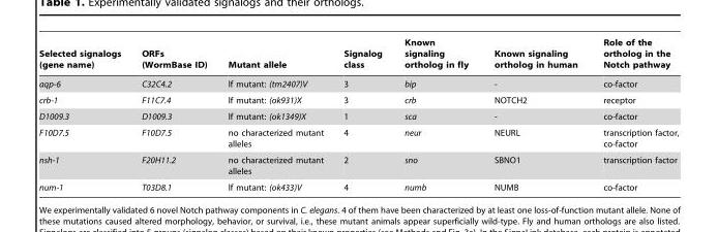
<table><thead><tr><td>Selected signalogs (gene name)</td><td>ORFs (WormBase ID)</td><td>Mutant allele</td><td>Signalog class</td><td>Known signaling ortholog in fly</td><td>Known signaling ortholog in human</td><td>Role of the ortholog in the Notch pathway</td></tr></thead><tbody><tr><td>aqp-6</td><td>C32C4.2</td><td>lf mutant: (tm2407)V</td><td>3</td><td>bip</td><td>-</td><td>co-factor</td></tr><tr><td>crb-1</td><td>F11C7.4</td><td>lf mutant: (ok931)X</td><td>3</td><td>crb</td><td>NOTCH2</td><td>receptor</td></tr><tr><td>D1009.3</td><td>D1009.3</td><td>lf mutant: (ok1349)X</td><td>1</td><td>sca</td><td>-</td><td>co-factor</td></tr><tr><td>F10D7.5</td><td>F10D7.5</td><td>no characterized mutant alleles</td><td>4</td><td>neur</td><td>NEURL</td><td>transcription factor, co-factor</td></tr><tr><td>nsh-1</td><td>F20H11.2</td><td>no characterized mutant alleles</td><td>2</td><td>sno</td><td>SBNO1</td><td>transcription factor</td></tr><tr><td>num-1</td><td>T03D8.1</td><td>lf mutant: (ok433)V</td><td>4</td><td>numb</td><td>NUMB</td><td>co-factor</td></tr></tbody></table>